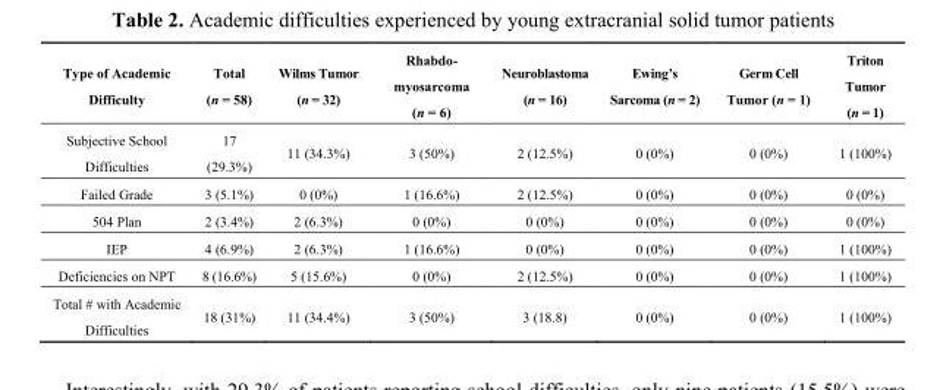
<table><thead><tr><td>Type of Academic Difficulty</td><td>Total (n = 58)</td><td>Wilms Tumor (n = 32)</td><td>Rhabdo- myosarcoma (n = 6)</td><td>Neuroblastoma (n = 16)</td><td>Ewing’s Sarcoma (n = 2)</td><td>Germ Cell Tumor (n = 1)</td><td>Triton Tumor (n = 1)</td></tr></thead><tbody><tr><td>Subjective School Difficulties</td><td>17 (29.3%)</td><td>11 (34.3%)</td><td>3 (50%)</td><td>2 (12.5%)</td><td>0 (0%)</td><td>0 (0%)</td><td>1 (100%)</td></tr><tr><td>Failed Grade</td><td>3 (5.1%)</td><td>0 (0%)</td><td>1 (16.6%)</td><td>2 (12.5%)</td><td>0 (0%)</td><td>0 (0%)</td><td>0 (0%)</td></tr><tr><td>504 Plan</td><td>2 (3.4%)</td><td>2 (6.3%)</td><td>0 (0%)</td><td>0 (0%)</td><td>0 (0%)</td><td>0 (0%)</td><td>0 (0%)</td></tr><tr><td>IEP</td><td>4 (6.9%)</td><td>2 (6.3%)</td><td>1 (16.6%)</td><td>0 (0%)</td><td>0 (0%)</td><td>0 (0%)</td><td>1 (100%)</td></tr><tr><td>Deficiencies on NPT</td><td>8 (16.6%)</td><td>5 (15.6%)</td><td>0 (0%)</td><td>2 (12.5%)</td><td>0 (0%)</td><td>0 (0%)</td><td>1 (100%)</td></tr><tr><td>Total # with Academic Difficulties</td><td>18 (31%)</td><td>11 (34.4%)</td><td>3 (50%)</td><td>3 (18.8)</td><td>0 (0%)</td><td>0 (0%)</td><td>1 (100%)</td></tr></tbody></table>